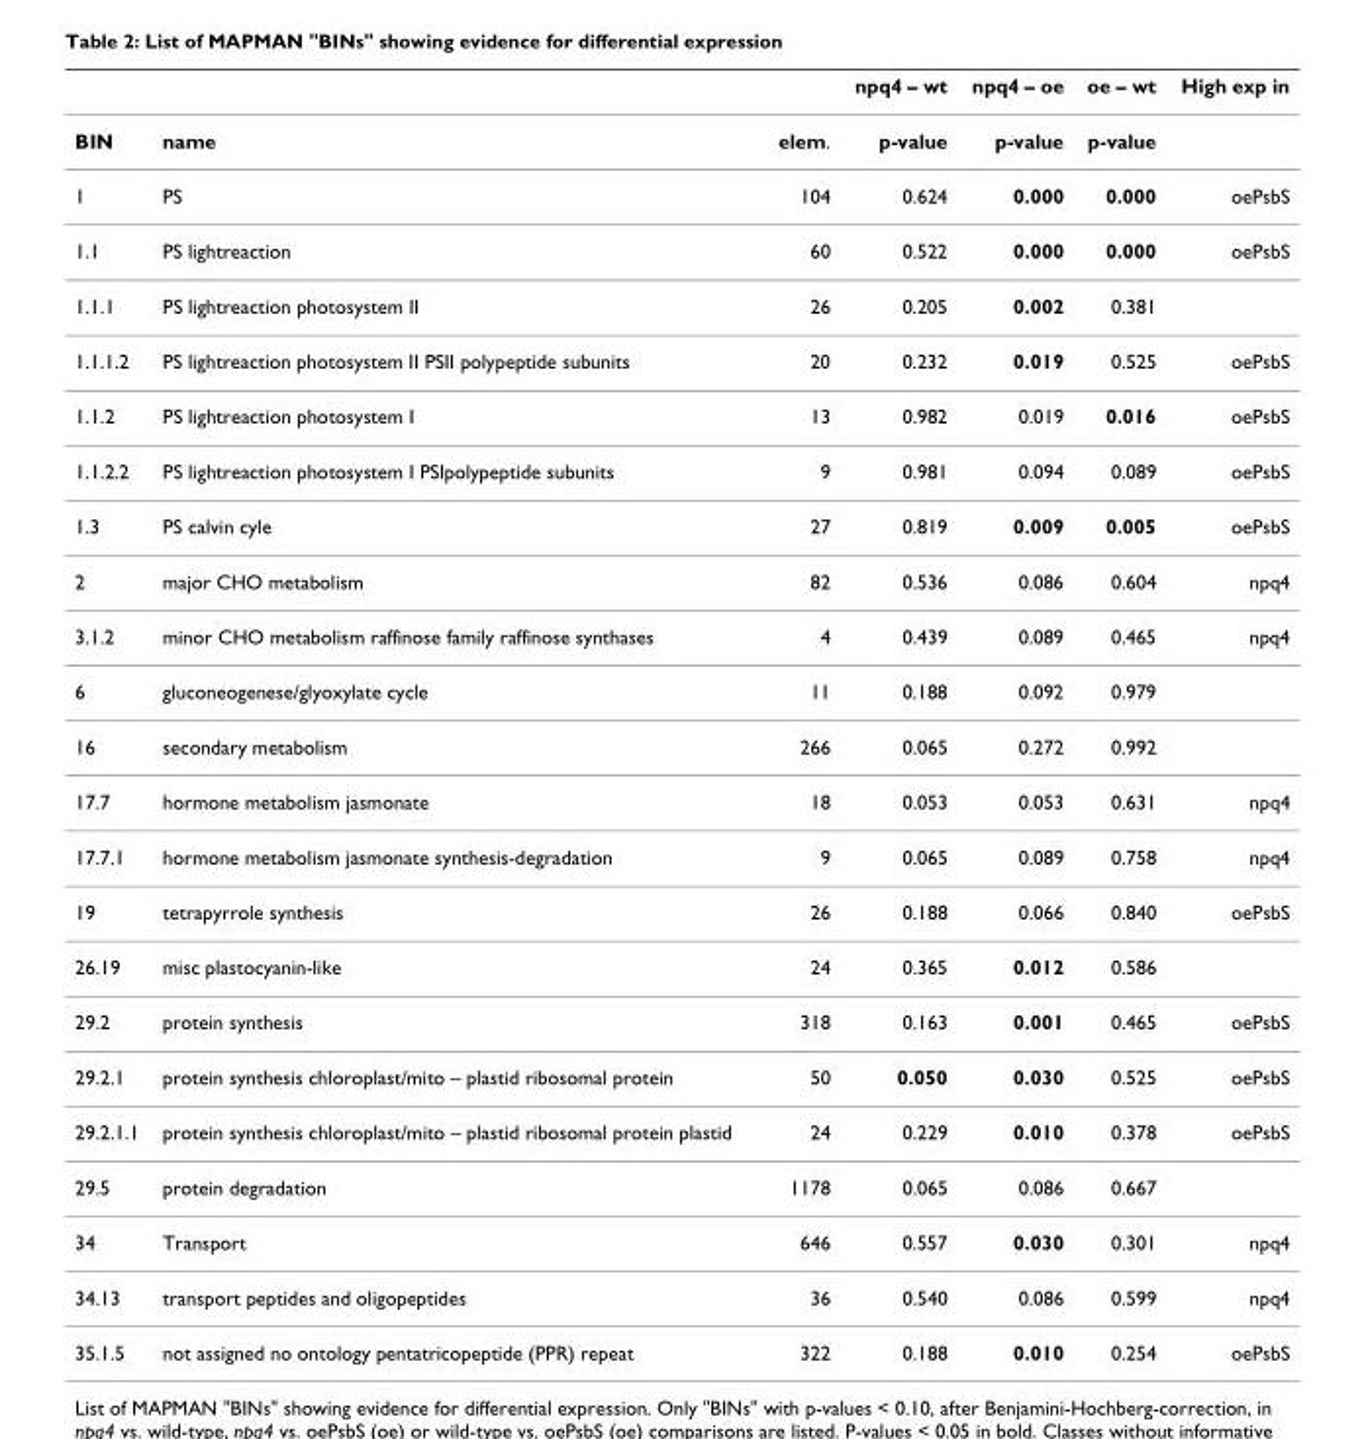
<table><thead><tr><td></td><td></td><td></td><td>npq4 – wt</td><td>npq4 – oe</td><td>oe – wt</td><td>High exp in</td></tr></thead><tbody><tr><td>BIN</td><td>name</td><td>elem.</td><td>p-value</td><td>p-value</td><td>p-value</td><td></td></tr><tr><td>1</td><td>PS</td><td>104</td><td>0.624</td><td>0.000</td><td>0.000</td><td>oePsbS</td></tr><tr><td>1.1</td><td>PS lightreaction</td><td>60</td><td>0.522</td><td>0.000</td><td>0.000</td><td>oePsbS</td></tr><tr><td>1.1.1</td><td>PS lightreaction photosystem II</td><td>26</td><td>0.205</td><td>0.002</td><td>0.381</td><td></td></tr><tr><td>1.1.1.2</td><td>PS lightreaction photosystem II PSII polypeptide subunits</td><td>20</td><td>0.232</td><td>0.019</td><td>0.525</td><td>oePsbS</td></tr><tr><td>1.1.2</td><td>PS lightreaction photosystem I</td><td>13</td><td>0.982</td><td>0.019</td><td>0.016</td><td>oePsbS</td></tr><tr><td>1.1.2.2</td><td>PS lightreaction photosystem I PSIpolypeptide subunits</td><td>9</td><td>0.981</td><td>0.094</td><td>0.089</td><td>oePsbS</td></tr><tr><td>1.3</td><td>PS calvin cyle</td><td>27</td><td>0.819</td><td>0.009</td><td>0.005</td><td>oePsbS</td></tr><tr><td>2</td><td>major CHO metabolism</td><td>82</td><td>0.536</td><td>0.086</td><td>0.604</td><td>npq4</td></tr><tr><td>3.1.2</td><td>minor CHO metabolism raffinose family raffinose synthases</td><td>4</td><td>0.439</td><td>0.089</td><td>0.465</td><td>npq4</td></tr><tr><td>6</td><td>gluconeogenese/glyoxylate cycle</td><td>11</td><td>0.188</td><td>0.092</td><td>0.979</td><td></td></tr><tr><td>16</td><td>secondary metabolism</td><td>266</td><td>0.065</td><td>0.272</td><td>0.992</td><td></td></tr><tr><td>17.7</td><td>hormone metabolism jasmonate</td><td>18</td><td>0.053</td><td>0.053</td><td>0.631</td><td>npq4</td></tr><tr><td>17.7.1</td><td>hormone metabolism jasmonate synthesis-degradation</td><td>9</td><td>0.065</td><td>0.089</td><td>0.758</td><td>npq4</td></tr><tr><td>19</td><td>tetrapyrrole synthesis</td><td>26</td><td>0.188</td><td>0.066</td><td>0.840</td><td>oePsbS</td></tr><tr><td>26.19</td><td>misc plastocyanin-like</td><td>24</td><td>0.365</td><td>0.012</td><td>0.586</td><td></td></tr><tr><td>29.2</td><td>protein synthesis</td><td>318</td><td>0.163</td><td>0.001</td><td>0.465</td><td>oePsbS</td></tr><tr><td>29.2.1</td><td>protein synthesis chloroplast/mito – plastid ribosomal protein</td><td>50</td><td>0.050</td><td>0.030</td><td>0.525</td><td>oePsbS</td></tr><tr><td>29.2.1.1</td><td>protein synthesis chloroplast/mito – plastid ribosomal protein plastid</td><td>24</td><td>0.229</td><td>0.010</td><td>0.378</td><td>oePsbS</td></tr><tr><td>29.5</td><td>protein degradation</td><td>1178</td><td>0.065</td><td>0.086</td><td>0.667</td><td></td></tr><tr><td>34</td><td>Transport</td><td>646</td><td>0.557</td><td>0.030</td><td>0.301</td><td>npq4</td></tr><tr><td>34.13</td><td>transport peptides and oligopeptides</td><td>36</td><td>0.540</td><td>0.086</td><td>0.599</td><td>npq4</td></tr><tr><td>35.1.5</td><td>not assigned no ontology pentatricopeptide (PPR) repeat</td><td>322</td><td>0.188</td><td>0.010</td><td>0.254</td><td>oePsbS</td></tr></tbody></table>